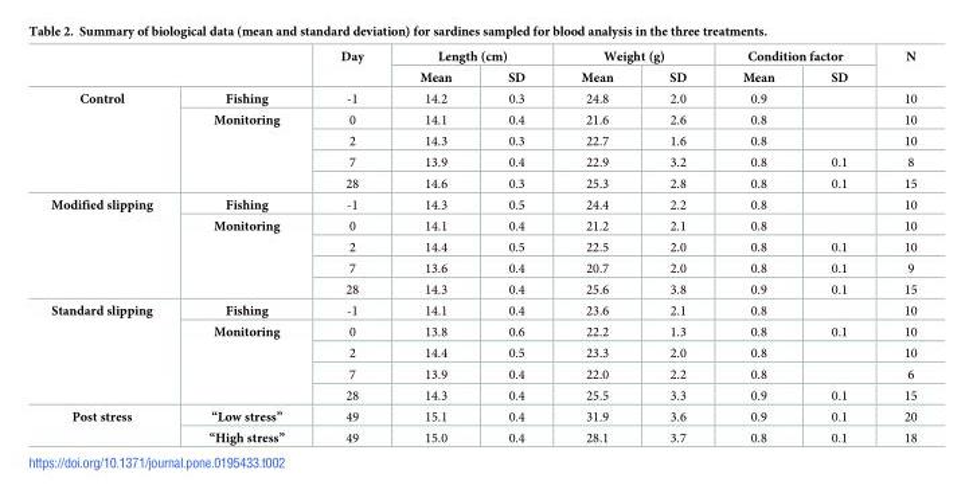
<table><thead><tr><td rowspan="2"></td><td rowspan="2"></td><td rowspan="2">Day</td><td colspan="2">Length (cm)</td><td colspan="2">Weight (g)</td><td colspan="2">Condition factor</td><td rowspan="2">N</td></tr><tr><td>Mean</td><td>SD</td><td>Mean</td><td>SD</td><td>Mean</td><td>SD</td></tr></thead><tbody><tr><td rowspan="5">Control</td><td>Fishing</td><td>-1</td><td>14.2</td><td>0.3</td><td>24.8</td><td>2.0</td><td>0.9</td><td></td><td>10</td></tr><tr><td rowspan="4">Monitoring</td><td>0</td><td>14.1</td><td>0.4</td><td>21.6</td><td>2.6</td><td>0.8</td><td></td><td>10</td></tr><tr><td>2</td><td>14.3</td><td>0.3</td><td>22.7</td><td>1.6</td><td>0.8</td><td></td><td>10</td></tr><tr><td>7</td><td>13.9</td><td>0.4</td><td>22.9</td><td>3.2</td><td>0.8</td><td>0.1</td><td>8</td></tr><tr><td>28</td><td>14.6</td><td>0.3</td><td>25.3</td><td>2.8</td><td>0.8</td><td>0.1</td><td>15</td></tr><tr><td rowspan="5">Modified slipping</td><td>Fishing</td><td>-1</td><td>14.3</td><td>0.5</td><td>24.4</td><td>2.2</td><td>0.8</td><td></td><td>10</td></tr><tr><td rowspan="4">Monitoring</td><td>0</td><td>14.1</td><td>0.4</td><td>21.2</td><td>2.1</td><td>0.8</td><td></td><td>10</td></tr><tr><td>2</td><td>14.4</td><td>0.5</td><td>22.5</td><td>2.0</td><td>0.8</td><td>0.1</td><td>10</td></tr><tr><td>7</td><td>13.6</td><td>0.4</td><td>20.7</td><td>2.0</td><td>0.8</td><td>0.1</td><td>9</td></tr><tr><td>28</td><td>14.3</td><td>0.4</td><td>25.6</td><td>3.8</td><td>0.9</td><td>0.1</td><td>15</td></tr><tr><td rowspan="5">Standard slipping</td><td>Fishing</td><td>-1</td><td>14.1</td><td>0.4</td><td>23.6</td><td>2.1</td><td>0.8</td><td></td><td>10</td></tr><tr><td rowspan="4">Monitoring</td><td>0</td><td>13.8</td><td>0.6</td><td>22.2</td><td>1.3</td><td>0.8</td><td>0.1</td><td>10</td></tr><tr><td>2</td><td>14.4</td><td>0.5</td><td>23.3</td><td>2.0</td><td>0.8</td><td></td><td>10</td></tr><tr><td>7</td><td>13.9</td><td>0.4</td><td>22.0</td><td>2.2</td><td>0.8</td><td></td><td>6</td></tr><tr><td>28</td><td>14.3</td><td>0.4</td><td>25.5</td><td>3.3</td><td>0.9</td><td>0.1</td><td>15</td></tr><tr><td rowspan="2">Post stress</td><td>“Low stress”</td><td>49</td><td>15.1</td><td>0.4</td><td>31.9</td><td>3.6</td><td>0.9</td><td>0.1</td><td>20</td></tr><tr><td>“High stress”</td><td>49</td><td>15.0</td><td>0.4</td><td>28.1</td><td>3.7</td><td>0.8</td><td>0.1</td><td>18</td></tr></tbody></table>